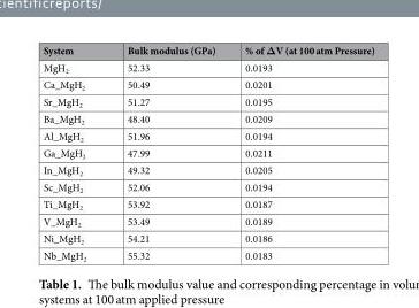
<table><thead><tr><td>System</td><td>Bulk modulus (GPa)</td><td>% of ΔV (at 100 atm Pressure)</td></tr></thead><tbody><tr><td>MgH<sub>2</sub></td><td>52.33</td><td>0.0193</td></tr><tr><td>Ca_MgH<sub>2</sub></td><td>50.49</td><td>0.0201</td></tr><tr><td>Sr_MgH<sub>2</sub></td><td>51.27</td><td>0.0195</td></tr><tr><td>Ba_MgH<sub>2</sub></td><td>48.40</td><td>0.0209</td></tr><tr><td>Al_MgH<sub>2</sub></td><td>51.96</td><td>0.0194</td></tr><tr><td>Ga_MgH<sub>2</sub></td><td>47.99</td><td>0.0211</td></tr><tr><td>In_MgH<sub>2</sub></td><td>49.32</td><td>0.0205</td></tr><tr><td>Sc_MgH<sub>2</sub></td><td>52.06</td><td>0.0194</td></tr><tr><td>Ti_MgH<sub>2</sub></td><td>53.92</td><td>0.0187</td></tr><tr><td>V_MgH<sub>2</sub></td><td>53.49</td><td>0.0189</td></tr><tr><td>Ni_MgH<sub>2</sub></td><td>54.21</td><td>0.0186</td></tr><tr><td>Nb_MgH<sub>2</sub></td><td>55.32</td><td>0.0183</td></tr></tbody></table>